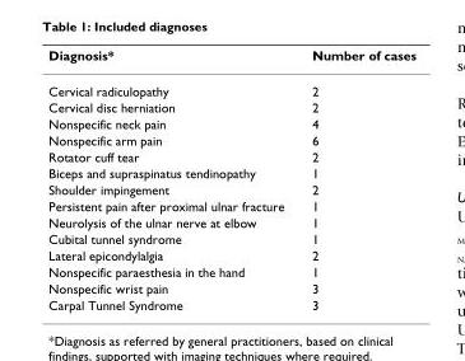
<table><thead><tr><td>Diagnosis*</td><td>Number of cases</td></tr></thead><tbody><tr><td>Cervical radiculopathy</td><td>2</td></tr><tr><td>Cervical disc herniation</td><td>2</td></tr><tr><td>Nonspecific neck pain</td><td>4</td></tr><tr><td>Nonspecific arm pain</td><td>6</td></tr><tr><td>Rotator cuff tear</td><td>2</td></tr><tr><td>Biceps and supraspinatus tendinopathy</td><td>1</td></tr><tr><td>Shoulder impingement</td><td>2</td></tr><tr><td>Persistent pain after proximal ulnar fracture</td><td>1</td></tr><tr><td>Neurolysis of the ulnar nerve at elbow</td><td>1</td></tr><tr><td>Cubital tunnel syndrome</td><td>1</td></tr><tr><td>Lateral epicondylalgia</td><td>2</td></tr><tr><td>Nonspecific paraesthesia in the hand</td><td>1</td></tr><tr><td>Nonspecific wrist pain</td><td>3</td></tr><tr><td>Carpal Tunnel Syndrome</td><td>3</td></tr></tbody></table>